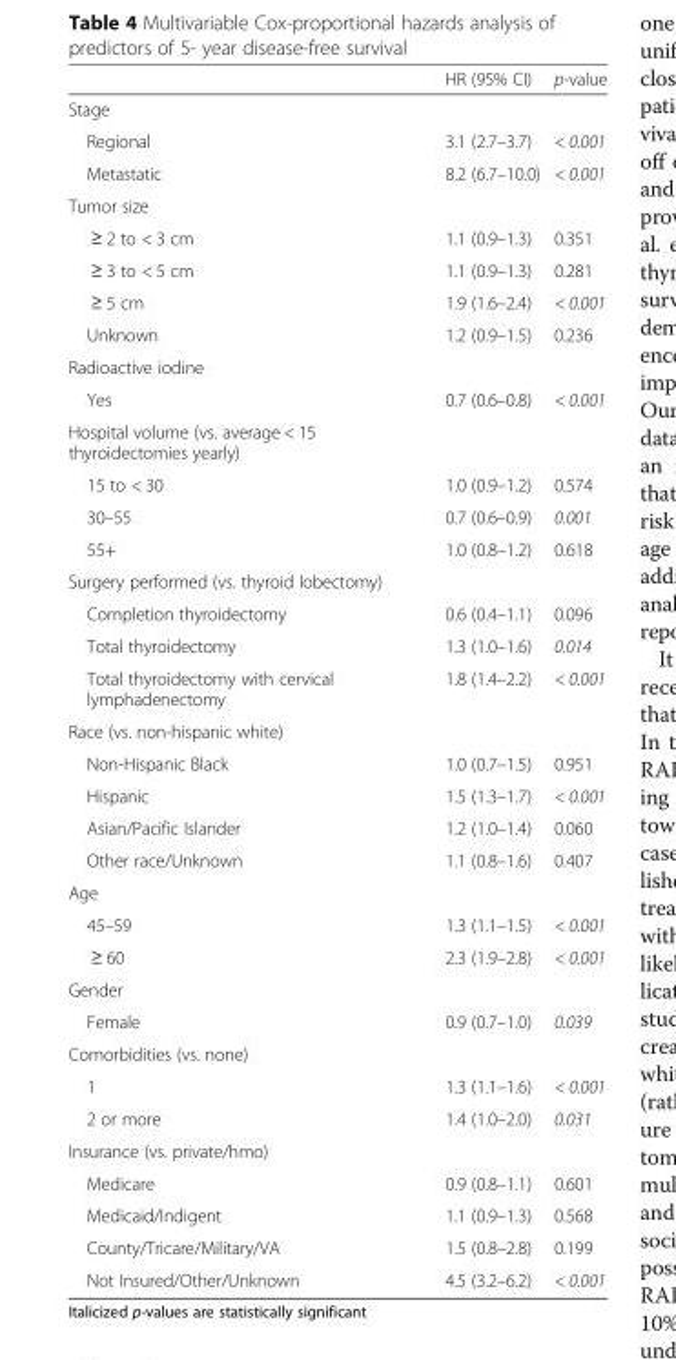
<table><thead><tr><td></td><td>HR (95% CI)</td><td>p-value</td></tr></thead><tbody><tr><td colspan="3">Stage</td></tr><tr><td>Regional</td><td>3.1 (2.7–3.7)</td><td>&lt; 0.001</td></tr><tr><td>Metastatic</td><td>8.2 (6.7–10.0)</td><td>&lt; 0.001</td></tr><tr><td colspan="3">Tumor size</td></tr><tr><td>≥ 2 to &lt; 3 cm</td><td>1.1 (0.9–1.3)</td><td>0.351</td></tr><tr><td>≥ 3 to &lt; 5 cm</td><td>1.1 (0.9–1.3)</td><td>0.281</td></tr><tr><td>≥ 5 cm</td><td>1.9 (1.6–2.4)</td><td>&lt; 0.001</td></tr><tr><td>Unknown</td><td>1.2 (0.9–1.5)</td><td>0.236</td></tr><tr><td colspan="3">Radioactive iodine</td></tr><tr><td>Yes</td><td>0.7 (0.6–0.8)</td><td>&lt; 0.001</td></tr><tr><td colspan="3">Hospital volume (vs. average &lt; 15 thyroidectomies yearly)</td></tr><tr><td>15 to &lt; 30</td><td>1.0 (0.9–1.2)</td><td>0.574</td></tr><tr><td>30–55</td><td>0.7 (0.6–0.9)</td><td>0.001</td></tr><tr><td>55+</td><td>1.0 (0.8–1.2)</td><td>0.618</td></tr><tr><td colspan="3">Surgery performed (vs. thyroid lobectomy)</td></tr><tr><td>Completion thyroidectomy</td><td>0.6 (0.4–1.1)</td><td>0.096</td></tr><tr><td>Total thyroidectomy</td><td>1.3 (1.0–1.6)</td><td>0.014</td></tr><tr><td>Total thyroidectomy with cervical lymphadenectomy</td><td>1.8 (1.4–2.2)</td><td>&lt; 0.001</td></tr><tr><td colspan="3">Race (vs. non-hispanic white)</td></tr><tr><td>Non-Hispanic Black</td><td>1.0 (0.7–1.5)</td><td>0.951</td></tr><tr><td>Hispanic</td><td>1.5 (1.3–1.7)</td><td>&lt; 0.001</td></tr><tr><td>Asian/Pacific Islander</td><td>1.2 (1.0–1.4)</td><td>0.060</td></tr><tr><td>Other race/Unknown</td><td>1.1 (0.8–1.6)</td><td>0.407</td></tr><tr><td colspan="3">Age</td></tr><tr><td>45–59</td><td>1.3 (1.1–1.5)</td><td>&lt; 0.001</td></tr><tr><td>≥ 60</td><td>2.3 (1.9–2.8)</td><td>&lt; 0.001</td></tr><tr><td colspan="3">Gender</td></tr><tr><td>Female</td><td>0.9 (0.7–1.0)</td><td>0.039</td></tr><tr><td colspan="3">Comorbidities (vs. none)</td></tr><tr><td>1</td><td>1.3 (1.1–1.6)</td><td>&lt; 0.001</td></tr><tr><td>2 or more</td><td>1.4 (1.0–2.0)</td><td>0.031</td></tr><tr><td colspan="3">Insurance (vs. private/hmo)</td></tr><tr><td>Medicare</td><td>0.9 (0.8–1.1)</td><td>0.601</td></tr><tr><td>Medicaid/Indigent</td><td>1.1 (0.9–1.3)</td><td>0.568</td></tr><tr><td>County/Tricare/Military/VA</td><td>1.5 (0.8–2.8)</td><td>0.199</td></tr><tr><td>Not Insured/Other/Unknown</td><td>4.5 (3.2–6.2)</td><td>&lt; 0.001</td></tr></tbody></table>